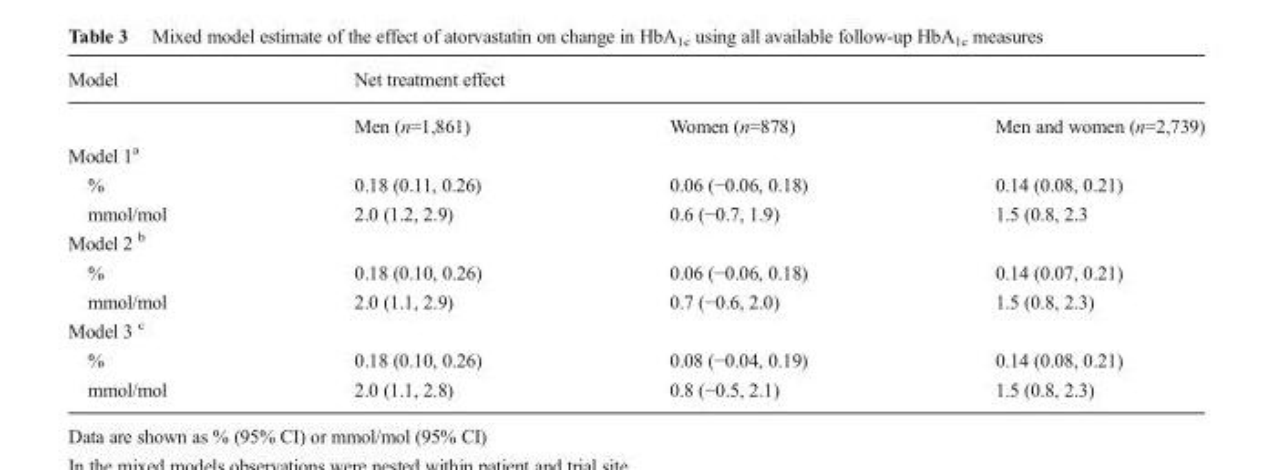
<table><thead><tr><td rowspan="2">Model</td><td colspan="3">Net treatment effect</td></tr><tr><td>Men (n=1,861)</td><td>Women (n=878)</td><td>Men and women (n=2,739)</td></tr></thead><tbody><tr><td colspan="4">Model 1<sup>a</sup></td></tr><tr><td>%</td><td>0.18 (0.11, 0.26)</td><td>0.06 (−0.06, 0.18)</td><td>0.14 (0.08, 0.21)</td></tr><tr><td>mmol/mol</td><td>2.0 (1.2, 2.9)</td><td>0.6 (−0.7, 1.9)</td><td>1.5 (0.8, 2.3</td></tr><tr><td colspan="4">Model 2 <sup>b</sup></td></tr><tr><td>%</td><td>0.18 (0.10, 0.26)</td><td>0.06 (−0.06, 0.18)</td><td>0.14 (0.07, 0.21)</td></tr><tr><td>mmol/mol</td><td>2.0 (1.1, 2.9)</td><td>0.7 (−0.6, 2.0)</td><td>1.5 (0.8, 2.3)</td></tr><tr><td colspan="4">Model 3 <sup>c</sup></td></tr><tr><td>%</td><td>0.18 (0.10, 0.26)</td><td>0.08 (−0.04, 0.19)</td><td>0.14 (0.08, 0.21)</td></tr><tr><td>mmol/mol</td><td>2.0 (1.1, 2.8)</td><td>0.8 (−0.5, 2.1)</td><td>1.5 (0.8, 2.3)</td></tr></tbody></table>